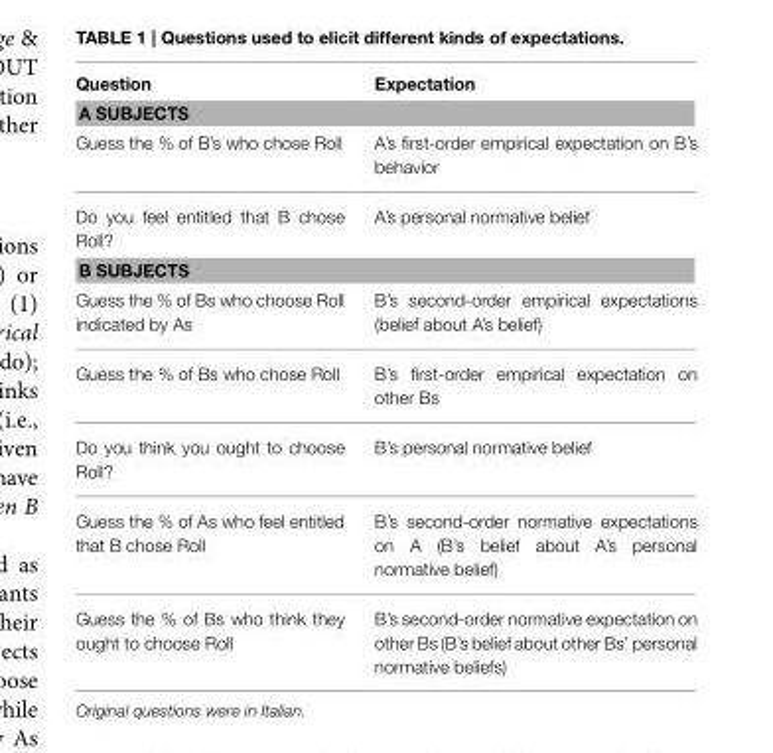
<table><thead><tr><td>Question</td><td>Expectation</td></tr><tr><td colspan="2">A SUBJECTS</td></tr></thead><tbody><tr><td>Guess the % of B’s who chose Roll</td><td>A’s first-order empirical expectation on B’s behavior</td></tr><tr><td>Do you feel entitled that B chose Roll?</td><td>A’s personal normative belief</td></tr><tr><td colspan="2">B SUBJECTS</td></tr><tr><td>Guess the % of Bs who choose Roll indicated by As</td><td>B’s second-order empirical expectations (belief about A’s belief)</td></tr><tr><td>Guess the % of Bs who chose Roll</td><td>B’s first-order empirical expectation on other Bs</td></tr><tr><td>Do you think you ought to choose Roll?</td><td>B’s personal normative belief</td></tr><tr><td>Guess the % of As who feel entitled that B chose Roll</td><td>B’s second-order normative expectations on A (B’s belief about A’s personal normative belief)</td></tr><tr><td>Guess the % of Bs who think they ought to choose Roll</td><td>B’s second-order normative expectation on other Bs (B’s belief about other Bs’ personal normative beliefs)</td></tr></tbody></table>